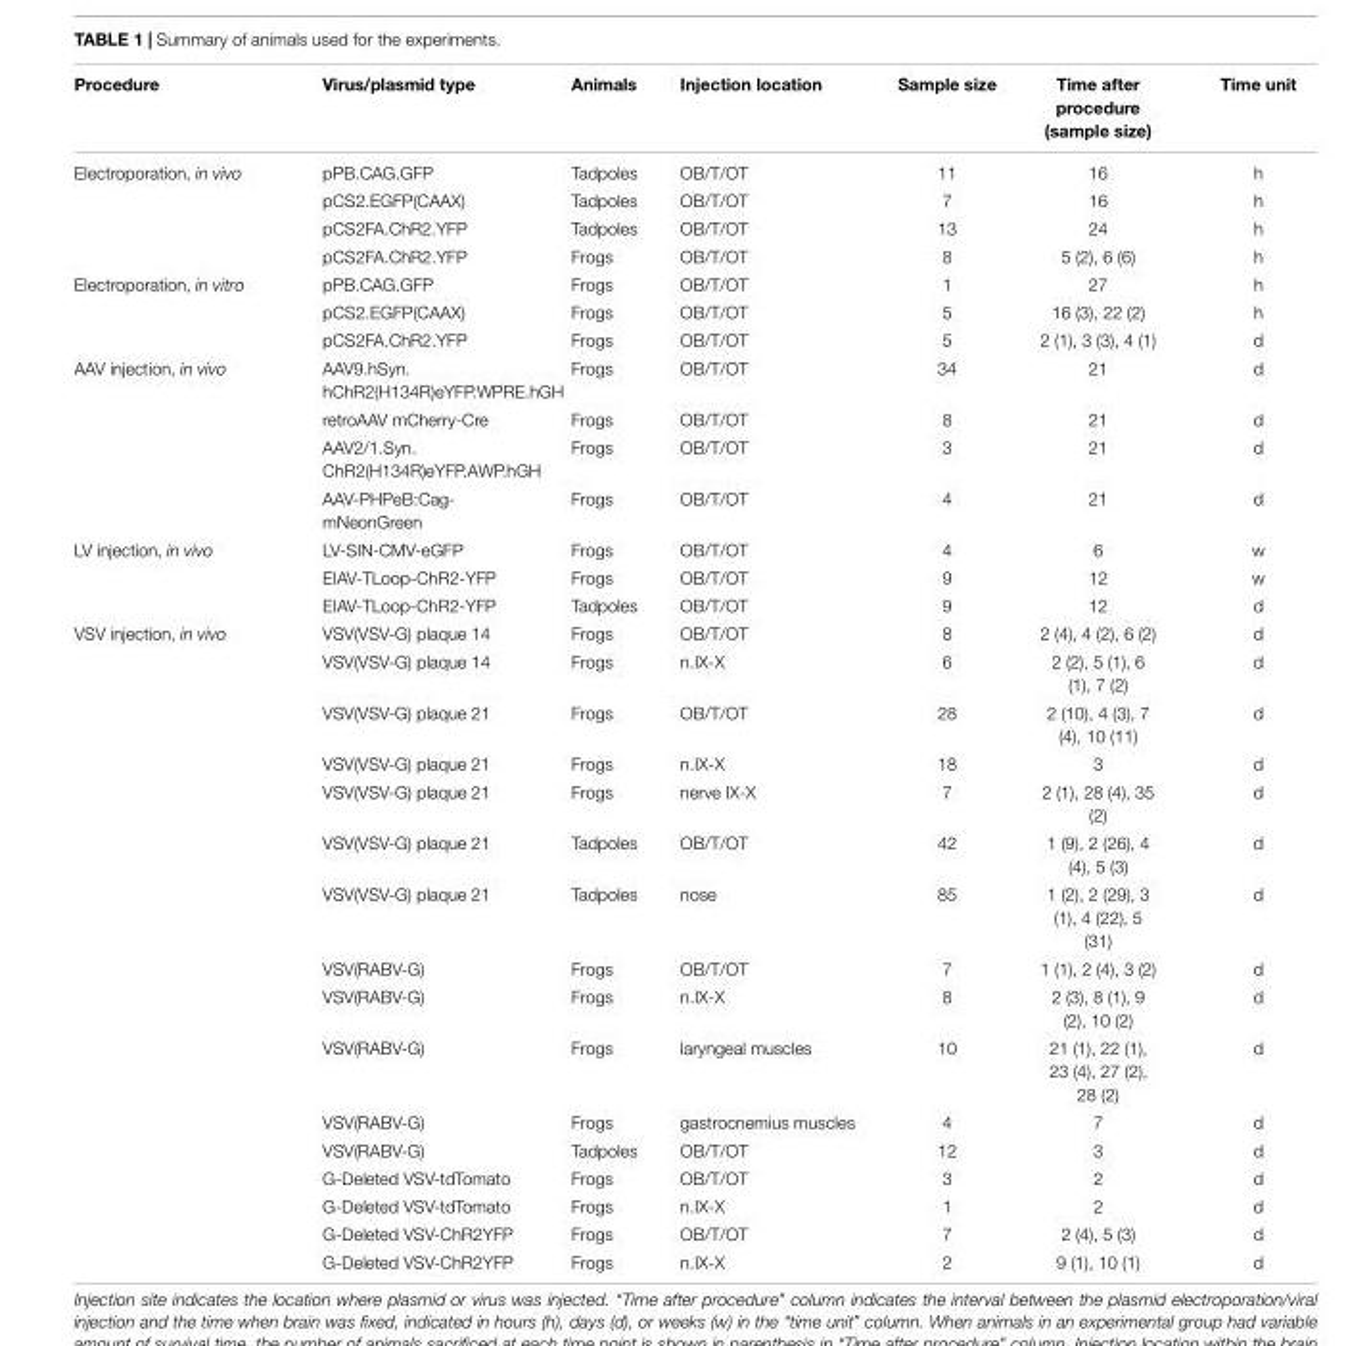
<table><thead><tr><td>Procedure</td><td>Virus/plasmid type</td><td>Animals</td><td>Injection location</td><td>Sample size</td><td>Time after procedure (sample size)</td><td>Time unit</td></tr></thead><tbody><tr><td rowspan="4">Electroporation, in vivo</td><td>pPB.CAG.GFP</td><td>Tadpoles</td><td>OB/T/OT</td><td>11</td><td>16</td><td>h</td></tr><tr><td>pCS2.EGFP(CAAX)</td><td>Tadpoles</td><td>OB/T/OT</td><td>7</td><td>16</td><td>h</td></tr><tr><td>pCS2FA.ChR2.YFP</td><td>Tadpoles</td><td>OB/T/OT</td><td>13</td><td>24</td><td>h</td></tr><tr><td>pCS2FA.ChR2.YFP</td><td>Frogs</td><td>OB/T/OT</td><td>8</td><td>5 (2), 6 (6)</td><td>h</td></tr><tr><td rowspan="3">Electroporation, in vitro</td><td>pPB.CAG.GFP</td><td>Frogs</td><td>OB/T/OT</td><td>1</td><td>27</td><td>h</td></tr><tr><td>pCS2.EGFP(CAAX)</td><td>Frogs</td><td>OB/T/OT</td><td>5</td><td>16 (3), 22 (2)</td><td>h</td></tr><tr><td>pCS2FA.ChR2.YFP</td><td>Frogs</td><td>OB/T/OT</td><td>5</td><td>2 (1), 3 (3), 4 (1)</td><td>d</td></tr><tr><td rowspan="4">AAV injection, in vivo</td><td>AAV9.hSyn. hChR2(H134R)eYFP.WPRE.hGH</td><td>Frogs</td><td>OB/T/OT</td><td>34</td><td>21</td><td>d</td></tr><tr><td>retroAAV mCherry-Cre</td><td>Frogs</td><td>OB/T/OT</td><td>8</td><td>21</td><td>d</td></tr><tr><td>AAV2/1.Syn. ChR2(H134R)eYFP.AWP.hGH</td><td>Frogs</td><td>OB/T/OT</td><td>3</td><td>21</td><td>d</td></tr><tr><td>AAV-PHPeB:Cag- mNeonGreen</td><td>Frogs</td><td>OB/T/OT</td><td>4</td><td>21</td><td>d</td></tr><tr><td rowspan="3">LV injection, in vivo</td><td>LV-SIN-CMV-eGFP</td><td>Frogs</td><td>OB/T/OT</td><td>4</td><td>6</td><td>w</td></tr><tr><td>EIAV-TLoop-ChR2-YFP</td><td>Frogs</td><td>OB/T/OT</td><td>9</td><td>12</td><td>w</td></tr><tr><td>EIAV-TLoop-ChR2-YFP</td><td>Tadpoles</td><td>OB/T/OT</td><td>9</td><td>12</td><td>d</td></tr><tr><td rowspan="16">VSV injection, in vivo</td><td>VSV(VSV-G) plaque 14</td><td>Frogs</td><td>OB/T/OT</td><td>8</td><td>2 (4), 4 (2), 6 (2)</td><td>d</td></tr><tr><td>VSV(VSV-G) plaque 14</td><td>Frogs</td><td>n.IX-X</td><td>6</td><td>2 (2), 5 (1), 6 (1), 7 (2)</td><td>d</td></tr><tr><td>VSV(VSV-G) plaque 21</td><td>Frogs</td><td>OB/T/OT</td><td>28</td><td>2 (10), 4 (3), 7 (4), 10 (11)</td><td>d</td></tr><tr><td>VSV(VSV-G) plaque 21</td><td>Frogs</td><td>n.IX-X</td><td>18</td><td>3</td><td>d</td></tr><tr><td>VSV(VSV-G) plaque 21</td><td>Frogs</td><td>nerve IX-X</td><td>7</td><td>2 (1), 28 (4), 35 (2)</td><td>d</td></tr><tr><td>VSV(VSV-G) plaque 21</td><td>Tadpoles</td><td>OB/T/OT</td><td>42</td><td>1 (9), 2 (26), 4 (4), 5 (3)</td><td>d</td></tr><tr><td>VSV(VSV-G) plaque 21</td><td>Tadpoles</td><td>nose</td><td>85</td><td>1 (2), 2 (29), 3 (1), 4 (22), 5 (31)</td><td>d</td></tr><tr><td>VSV(RABV-G)</td><td>Frogs</td><td>OB/T/OT</td><td>7</td><td>1 (1), 2 (4), 3 (2)</td><td>d</td></tr><tr><td>VSV(RABV-G)</td><td>Frogs</td><td>n.IX-X</td><td>8</td><td>2 (3), 8 (1), 9 (2), 10 (2)</td><td>d</td></tr><tr><td>VSV(RABV-G)</td><td>Frogs</td><td>laryngeal muscles</td><td>10</td><td>21 (1), 22 (1), 23 (4), 27 (2), 28 (2)</td><td>d</td></tr><tr><td>VSV(RABV-G)</td><td>Frogs</td><td>gastrocnemius muscles</td><td>4</td><td>7</td><td>d</td></tr><tr><td>VSV(RABV-G)</td><td>Tadpoles</td><td>OB/T/OT</td><td>12</td><td>3</td><td>d</td></tr><tr><td>G-Deleted VSV-tdTomato</td><td>Frogs</td><td>OB/T/OT</td><td>3</td><td>2</td><td>d</td></tr><tr><td>G-Deleted VSV-tdTomato</td><td>Frogs</td><td>n.IX-X</td><td>1</td><td>2</td><td>d</td></tr><tr><td>G-Deleted VSV-ChR2YFP</td><td>Frogs</td><td>OB/T/OT</td><td>7</td><td>2 (4), 5 (3)</td><td>d</td></tr><tr><td>G-Deleted VSV-ChR2YFP</td><td>Frogs</td><td>n.IX-X</td><td>2</td><td>9 (1), 10 (1)</td><td>d</td></tr></tbody></table>